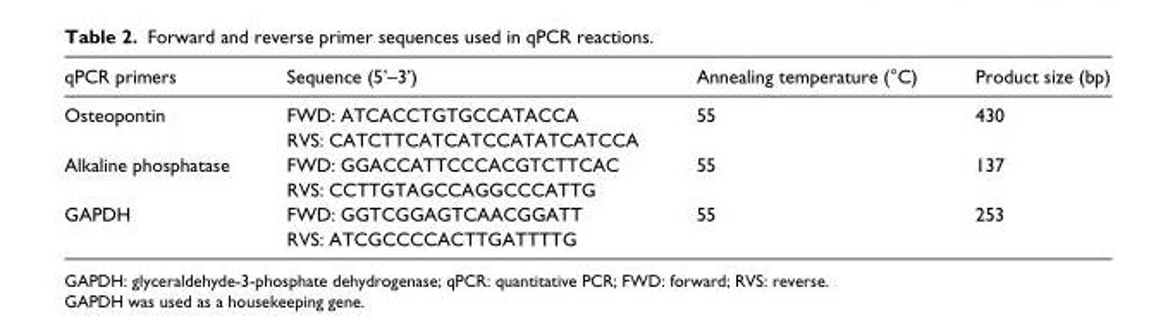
<table><thead><tr><td>qPCR primers</td><td>Sequence (5’–3’)</td><td>Annealing temperature (°C)</td><td>Product size (bp)</td></tr></thead><tbody><tr><td rowspan="2">Osteopontin</td><td>FWD: ATCACCTGTGCCATACCA</td><td>55</td><td>430</td></tr><tr><td>RVS: CATCTTCATCATCCATATCATCCA</td><td></td><td></td></tr><tr><td rowspan="2">Alkaline phosphatase</td><td>FWD: GGACCATTCCCACGTCTTCAC</td><td>55</td><td>137</td></tr><tr><td>RVS: CCTTGTAGCCAGGCCCATTG</td><td></td><td></td></tr><tr><td rowspan="2">GAPDH</td><td>FWD: GGTCGGAGTCAACGGATT</td><td>55</td><td>253</td></tr><tr><td>RVS: ATCGCCCCACTTGATTTTG</td><td></td><td></td></tr></tbody></table>